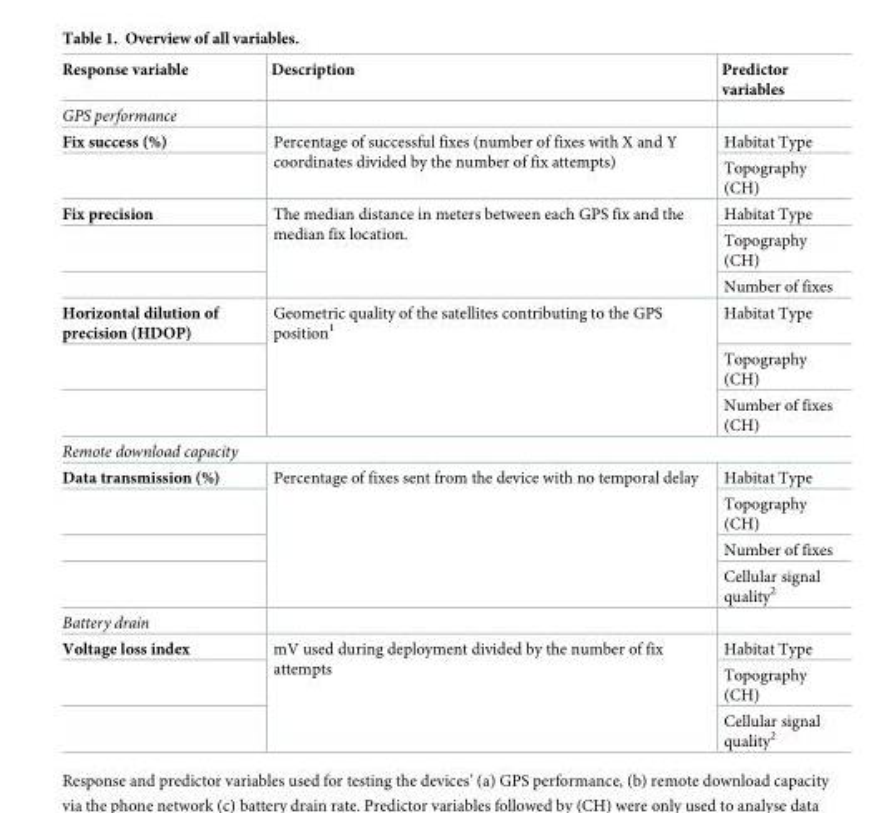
<table><thead><tr><td>Response variable</td><td>Description</td><td>Predictor variables</td></tr></thead><tbody><tr><td colspan="3">GPS performance</td></tr><tr><td rowspan="2">Fix success (%)</td><td rowspan="2">Percentage of successful fixes (number of fixes with X and Y coordinates divided by the number of fix attempts)</td><td>Habitat Type</td></tr><tr><td>Topography (CH)</td></tr><tr><td rowspan="3">Fix precision</td><td rowspan="3">The median distance in meters between each GPS fix and the median fix location.</td><td>Habitat Type</td></tr><tr><td>Topography (CH)</td></tr><tr><td>Number of fixes</td></tr><tr><td rowspan="3">Horizontal dilution of precision (HDOP)</td><td rowspan="3">Geometric quality of the satellites contributing to the GPS position<sup>1</sup></td><td>Habitat Type</td></tr><tr><td>Topography (CH)</td></tr><tr><td>Number of fixes (CH)</td></tr><tr><td colspan="3">Remote download capacity</td></tr><tr><td rowspan="4">Data transmission (%)</td><td rowspan="4">Percentage of fixes sent from the device with no temporal delay</td><td>Habitat Type</td></tr><tr><td>Topography (CH)</td></tr><tr><td>Number of fixes</td></tr><tr><td>Cellular signal quality<sup>2</sup></td></tr><tr><td colspan="3">Battery drain</td></tr><tr><td rowspan="3">Voltage loss index</td><td rowspan="3">mV used during deployment divided by the number of fix attempts</td><td>Habitat Type</td></tr><tr><td>Topography (CH)</td></tr><tr><td>Cellular signal quality<sup>2</sup></td></tr></tbody></table>